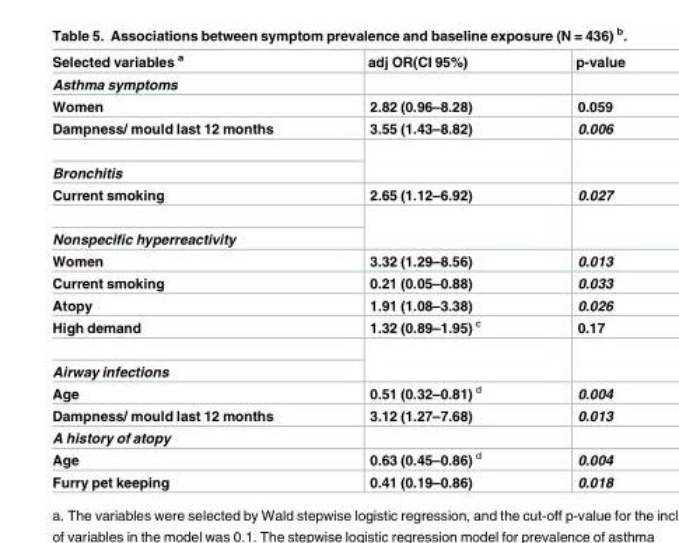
<table><thead><tr><td>Selected variables <sup>a</sup></td><td>adj OR(CI 95%)</td><td>p-value</td></tr></thead><tbody><tr><td colspan="3">Asthma symptoms</td></tr><tr><td>Women</td><td>2.82 (0.96–8.28)</td><td>0.059</td></tr><tr><td>Dampness/ mould last 12 months</td><td>3.55 (1.43–8.82)</td><td>0.006</td></tr><tr><td colspan="3">Bronchitis</td></tr><tr><td>Current smoking</td><td>2.65 (1.12–6.92)</td><td>0.027</td></tr><tr><td colspan="3">Nonspecific hyperreactivity</td></tr><tr><td>Women</td><td>3.32 (1.29–8.56)</td><td>0.013</td></tr><tr><td>Current smoking</td><td>0.21 (0.05–0.88)</td><td>0.033</td></tr><tr><td>Atopy</td><td>1.91 (1.08–3.38)</td><td>0.026</td></tr><tr><td>High demand</td><td>1.32 (0.89–1.95) <sup>c</sup></td><td>0.17</td></tr><tr><td colspan="3">Airway infections</td></tr><tr><td>Age</td><td>0.51 (0.32–0.81) <sup>d</sup></td><td>0.004</td></tr><tr><td>Dampness/ mould last 12 months</td><td>3.12 (1.27–7.68)</td><td>0.013</td></tr><tr><td colspan="3">A history of atopy</td></tr><tr><td>Age</td><td>0.63 (0.45–0.86) <sup>d</sup></td><td>0.004</td></tr><tr><td>Furry pet keeping</td><td>0.41 (0.19–0.86)</td><td>0.018</td></tr></tbody></table>